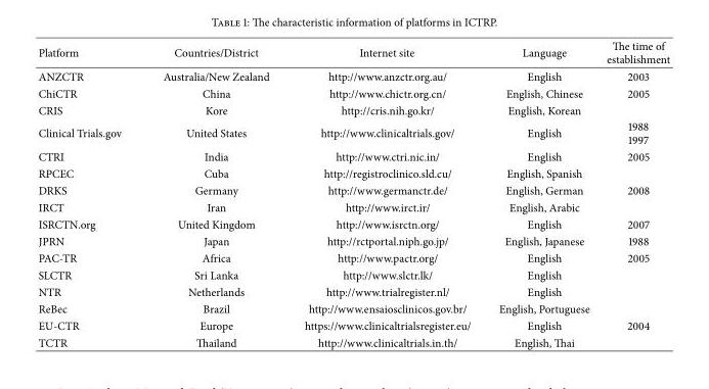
<table><thead><tr><td>Platform</td><td>Countries/District</td><td>Internet site</td><td>Language</td><td>The time of establishment</td></tr></thead><tbody><tr><td>ANZCTR</td><td>Australia/New Zealand</td><td>http://www.anzctr.org.au/</td><td>English</td><td>2003</td></tr><tr><td>ChiCTR</td><td>China</td><td>http://www.chictr.org.cn/</td><td>English, Chinese</td><td>2005</td></tr><tr><td>CRIS</td><td>Kore</td><td>http://cris.nih.go.kr/</td><td>English, Korean</td><td></td></tr><tr><td>Clinical Trials.gov</td><td>United States</td><td>http://www.clinicaltrials.gov/</td><td>English</td><td>1988 1997</td></tr><tr><td>CTRI</td><td>India</td><td>http://www.ctri.nic.in/</td><td>English</td><td>2005</td></tr><tr><td>RPCEC</td><td>Cuba</td><td>http://registroclinico.sld.cu/</td><td>English, Spanish</td><td></td></tr><tr><td>DRKS</td><td>Germany</td><td>http://www.germanctr.de/</td><td>English, German</td><td>2008</td></tr><tr><td>IRCT</td><td>Iran</td><td>http://www.irct.ir/</td><td>English, Arabic</td><td></td></tr><tr><td>ISRCTN.org</td><td>United Kingdom</td><td>http://www.isrctn.org/</td><td>English</td><td>2007</td></tr><tr><td>JPRN</td><td>Japan</td><td>http://rctportal.niph.go.jp/</td><td>English, Japanese</td><td>1988</td></tr><tr><td>PAC-TR</td><td>Africa</td><td>http://www.pactr.org/</td><td>English</td><td>2005</td></tr><tr><td>SLCTR</td><td>Sri Lanka</td><td>http://www.slctr.lk/</td><td>English</td><td></td></tr><tr><td>NTR</td><td>Netherlands</td><td>http://www.trialregister.nl/</td><td>English</td><td></td></tr><tr><td>ReBec</td><td>Brazil</td><td>http://www.ensaiosclinicos.gov.br/</td><td>English, Portuguese</td><td></td></tr><tr><td>EU-CTR</td><td>Europe</td><td>https://www.clinicaltrialsregister.eu/</td><td>English</td><td>2004</td></tr><tr><td>TCTR</td><td>Thailand</td><td>http://www.clinicaltrials.in.th/</td><td>English, Thai</td><td></td></tr></tbody></table>